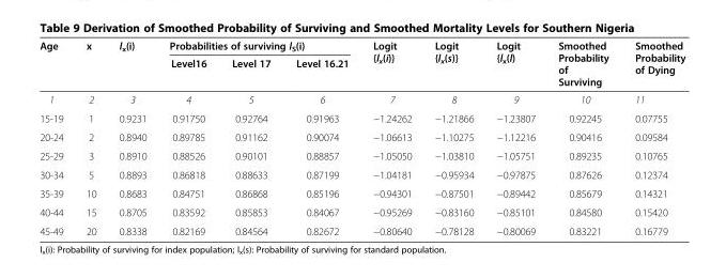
<table><thead><tr><td rowspan="2">Age</td><td rowspan="2">x</td><td rowspan="2">l<sub>x</sub>(i)</td><td colspan="3">Probabilities of surviving l<sub>S</sub>(i)</td><td rowspan="2">Logit {l<sub>x</sub>(i)}</td><td rowspan="2">Logit {l<sub>x</sub>(s)}</td><td rowspan="2">Logit {l<sub>x</sub>(l)</td><td rowspan="2">Smoothed Probability of Surviving</td><td rowspan="2">Smoothed Probability of Dying</td></tr><tr><td>Level16</td><td>Level 17</td><td>Level 16.21</td></tr></thead><tbody><tr><td>1</td><td>2</td><td>3</td><td>4</td><td>5</td><td>6</td><td>7</td><td>8</td><td>9</td><td>10</td><td>11</td></tr><tr><td>15-19</td><td>1</td><td>0.9231</td><td>0.91750</td><td>0.92764</td><td>0.91963</td><td>−1.24262</td><td>−1.21866</td><td>−1.23807</td><td>0.92245</td><td>0.07755</td></tr><tr><td>20-24</td><td>2</td><td>0.8940</td><td>0.89785</td><td>0.91162</td><td>0.90074</td><td>−1.06613</td><td>−1.10275</td><td>−1.12216</td><td>0.90416</td><td>0.09584</td></tr><tr><td>25-29</td><td>3</td><td>0.8910</td><td>0.88526</td><td>0.90101</td><td>0.88857</td><td>−1.05050</td><td>−1.03810</td><td>−1.05751</td><td>0.89235</td><td>0.10765</td></tr><tr><td>30-34</td><td>5</td><td>0.8893</td><td>0.86818</td><td>0.88633</td><td>0.87199</td><td>−1.04181</td><td>−0.95934</td><td>−0.97875</td><td>0.87626</td><td>0.12374</td></tr><tr><td>35-39</td><td>10</td><td>0.8683</td><td>0.84751</td><td>0.86868</td><td>0.85196</td><td>−0.94301</td><td>−0.87501</td><td>−0.89442</td><td>0.85679</td><td>0.14321</td></tr><tr><td>40-44</td><td>15</td><td>0.8705</td><td>0.83592</td><td>0.85853</td><td>0.84067</td><td>−0.95269</td><td>−0.83160</td><td>−0.85101</td><td>0.84580</td><td>0.15420</td></tr><tr><td>45-49</td><td>20</td><td>0.8338</td><td>0.82169</td><td>0.84564</td><td>0.82672</td><td>−0.80640</td><td>−0.78128</td><td>−0.80069</td><td>0.83221</td><td>0.16779</td></tr></tbody></table>